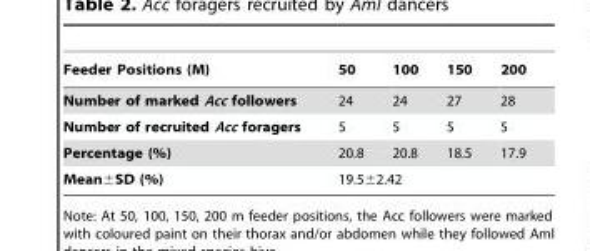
<table><thead><tr><td>Feeder Positions (M)</td><td>50</td><td>100</td><td>150</td><td>200</td></tr></thead><tbody><tr><td>Number of marked Acc followers</td><td>24</td><td>24</td><td>27</td><td>28</td></tr><tr><td>Number of recruited Acc foragers</td><td>5</td><td>5</td><td>5</td><td>5</td></tr><tr><td>Percentage (%)</td><td>20.8</td><td>20.8</td><td>18.5</td><td>17.9</td></tr><tr><td>Mean±SD (%)</td><td colspan="4">19.5±2.42</td></tr></tbody></table>